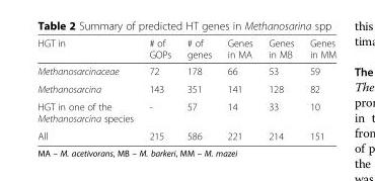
<table><thead><tr><td>HGT in</td><td># of GOPs</td><td># of genes</td><td>Genes in MA</td><td>Genes in MB</td><td>Genes in MM</td></tr></thead><tbody><tr><td>Methanosarcinaceae</td><td>72</td><td>178</td><td>66</td><td>53</td><td>59</td></tr><tr><td>Methanosarcina</td><td>143</td><td>351</td><td>141</td><td>128</td><td>82</td></tr><tr><td>HGT in one of the Methanosarcina species</td><td>-</td><td>57</td><td>14</td><td>33</td><td>10</td></tr><tr><td>All</td><td>215</td><td>586</td><td>221</td><td>214</td><td>151</td></tr></tbody></table>